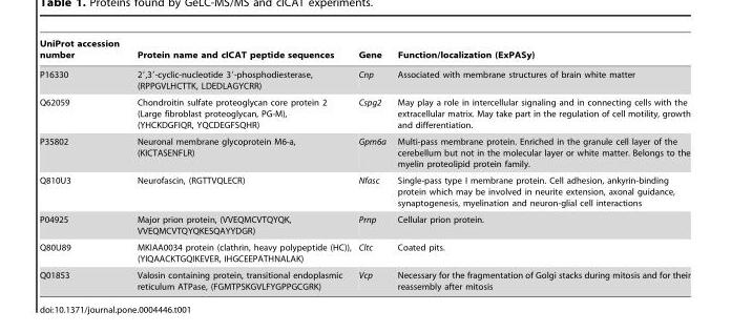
<table><thead><tr><td>UniProt accession number</td><td>Protein name and cICAT peptide sequences</td><td>Gene</td><td>Function/localization (ExPASy)</td></tr></thead><tbody><tr><td>P16330</td><td>2′,3′-cyclic-nucleotide 3′-phosphodiesterase, (RPPGVLHCTTK, LDEDLAGYCRR)</td><td>Cnp</td><td>Associated with membrane structures of brain white matter</td></tr><tr><td>Q62059</td><td>Chondroitin sulfate proteoglycan core protein 2 (Large fibroblast proteoglycan, PG-M), (YHCKDGFIQR, YQCDEGFSQHR)</td><td>Cspg2</td><td>May play a role in intercellular signaling and in connecting cells with the extracellular matrix. May take part in the regulation of cell motility, growth and differentiation.</td></tr><tr><td>P35802</td><td>Neuronal membrane glycoprotein M6-a, (KICTASENFLR)</td><td>Gpm6a</td><td>Multi-pass membrane protein. Enriched in the granule cell layer of the cerebellum but not in the molecular layer or white matter. Belongs to the myelin proteolipid protein family.</td></tr><tr><td>Q810U3</td><td>Neurofascin, (RGTTVQLECR)</td><td>Nfasc</td><td>Single-pass type I membrane protein. Cell adhesion, ankyrin-binding protein which may be involved in neurite extension, axonal guidance, synaptogenesis, myelination and neuron-glial cell interactions</td></tr><tr><td>P04925</td><td>Major prion protein, (VVEQMCVTQYQK, VVEQMCVTQYQKESQAYYDGR)</td><td>Prnp</td><td>Cellular prion protein.</td></tr><tr><td>Q80U89</td><td>MKIAA0034 protein (clathrin, heavy polypeptide (HC)), (YIQAACKTGQIKEVER, IHGCEEPATHNALAK)</td><td>Cltc</td><td>Coated pits.</td></tr><tr><td>Q01853</td><td>Valosin containing protein, transitional endoplasmic reticulum ATPase, (FGMTPSKGVLFYGPPGCGRK)</td><td>Vcp</td><td>Necessary for the fragmentation of Golgi stacks during mitosis and for their reassembly after mitosis</td></tr></tbody></table>